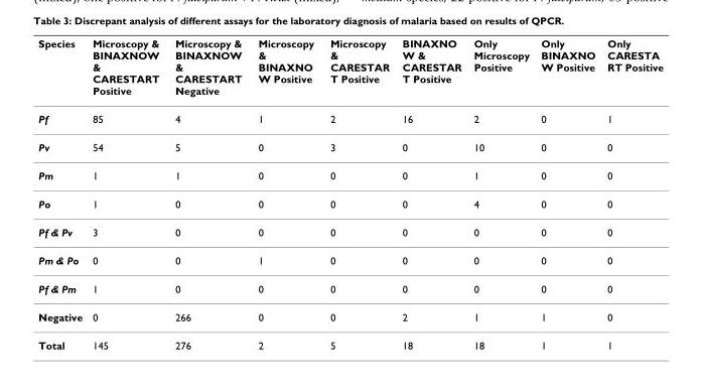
<table><thead><tr><td>Species</td><td>Microscopy &amp; BINAXNOW &amp; CARESTART Positive</td><td>Microscopy &amp; BINAXNOW &amp; CARESTART Negative</td><td>Microscopy &amp; BINAXNO W Positive</td><td>Microscopy &amp; CARESTAR T Positive</td><td>BINAXNO W &amp; CARESTAR T Positive</td><td>Only Microscopy Positive</td><td>Only BINAXNO W Positive</td><td>Only CARESTA RT Positive</td></tr></thead><tbody><tr><td>Pf</td><td>85</td><td>4</td><td>1</td><td>2</td><td>16</td><td>2</td><td>0</td><td>1</td></tr><tr><td>Pv</td><td>54</td><td>5</td><td>0</td><td>3</td><td>0</td><td>10</td><td>0</td><td>0</td></tr><tr><td>Pm</td><td>1</td><td>1</td><td>0</td><td>0</td><td>0</td><td>1</td><td>0</td><td>0</td></tr><tr><td>Po</td><td>1</td><td>0</td><td>0</td><td>0</td><td>0</td><td>4</td><td>0</td><td>0</td></tr><tr><td>Pf &amp; Pv</td><td>3</td><td>0</td><td>0</td><td>0</td><td>0</td><td>0</td><td>0</td><td>0</td></tr><tr><td>Pm &amp; Po</td><td>0</td><td>0</td><td>1</td><td>0</td><td>0</td><td>0</td><td>0</td><td>0</td></tr><tr><td>Pf &amp; Pm</td><td>1</td><td>0</td><td>0</td><td>0</td><td>0</td><td>0</td><td>0</td><td>0</td></tr><tr><td>Negative</td><td>0</td><td>266</td><td>0</td><td>0</td><td>2</td><td>1</td><td>1</td><td>0</td></tr><tr><td>Total</td><td>145</td><td>276</td><td>2</td><td>5</td><td>18</td><td>18</td><td>1</td><td>1</td></tr></tbody></table>